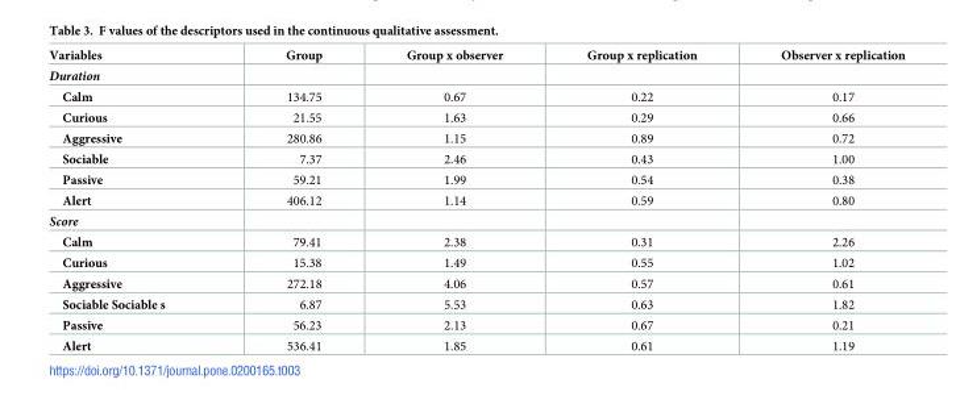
<table><thead><tr><td>Variables</td><td>Group</td><td>Group x observer</td><td>Group x replication</td><td>Observer x replication</td></tr></thead><tbody><tr><td colspan="5">Duration</td></tr><tr><td>Calm</td><td>134.75</td><td>0.67</td><td>0.22</td><td>0.17</td></tr><tr><td>Curious</td><td>21.55</td><td>1.63</td><td>0.29</td><td>0.66</td></tr><tr><td>Aggressive</td><td>280.86</td><td>1.15</td><td>0.89</td><td>0.72</td></tr><tr><td>Sociable</td><td>7.37</td><td>2.46</td><td>0.43</td><td>1.00</td></tr><tr><td>Passive</td><td>59.21</td><td>1.99</td><td>0.54</td><td>0.38</td></tr><tr><td>Alert</td><td>406.12</td><td>1.14</td><td>0.59</td><td>0.80</td></tr><tr><td colspan="5">Score</td></tr><tr><td>Calm</td><td>79.41</td><td>2.38</td><td>0.31</td><td>2.26</td></tr><tr><td>Curious</td><td>15.38</td><td>1.49</td><td>0.55</td><td>1.02</td></tr><tr><td>Aggressive</td><td>272.18</td><td>4.06</td><td>0.57</td><td>0.61</td></tr><tr><td>Sociable Sociable s</td><td>6.87</td><td>5.53</td><td>0.63</td><td>1.82</td></tr><tr><td>Passive</td><td>56.23</td><td>2.13</td><td>0.67</td><td>0.21</td></tr><tr><td>Alert</td><td>536.41</td><td>1.85</td><td>0.61</td><td>1.19</td></tr></tbody></table>